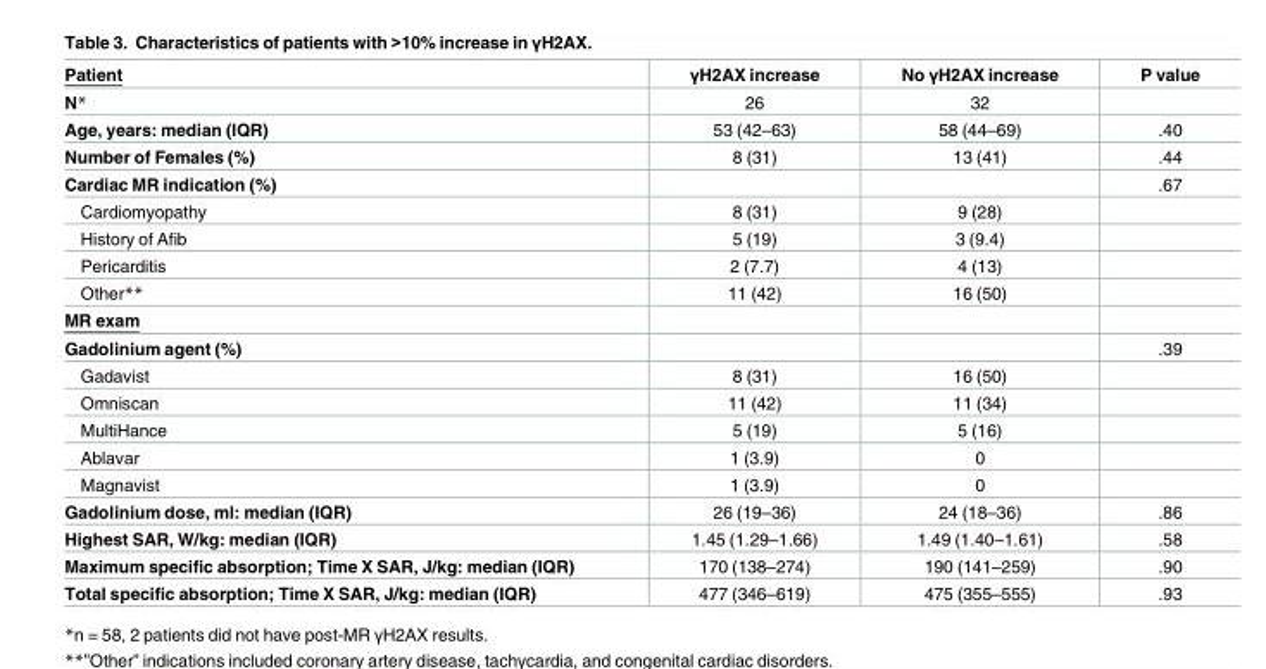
<table><thead><tr><td>Patient</td><td>γH2AX increase</td><td>No γH2AX increase</td><td>P value</td></tr></thead><tbody><tr><td>N*</td><td>26</td><td>32</td><td></td></tr><tr><td>Age, years: median (IQR)</td><td>53 (42–63)</td><td>58 (44–69)</td><td>.40</td></tr><tr><td>Number of Females (%)</td><td>8 (31)</td><td>13 (41)</td><td>.44</td></tr><tr><td>Cardiac MR indication (%)</td><td></td><td></td><td>.67</td></tr><tr><td>Cardiomyopathy</td><td>8 (31)</td><td>9 (28)</td><td></td></tr><tr><td>History of Afib</td><td>5 (19)</td><td>3 (9.4)</td><td></td></tr><tr><td>Pericarditis</td><td>2 (7.7)</td><td>4 (13)</td><td></td></tr><tr><td>Other**</td><td>11 (42)</td><td>16 (50)</td><td></td></tr><tr><td colspan="4">MR exam</td></tr><tr><td>Gadolinium agent (%)</td><td></td><td></td><td>.39</td></tr><tr><td>Gadavist</td><td>8 (31)</td><td>16 (50)</td><td></td></tr><tr><td>Omniscan</td><td>11 (42)</td><td>11 (34)</td><td></td></tr><tr><td>MultiHance</td><td>5 (19)</td><td>5 (16)</td><td></td></tr><tr><td>Ablavar</td><td>1 (3.9)</td><td>0</td><td></td></tr><tr><td>Magnavist</td><td>1 (3.9)</td><td>0</td><td></td></tr><tr><td>Gadolinium dose, ml: median (IQR)</td><td>26 (19–36)</td><td>24 (18–36)</td><td>.86</td></tr><tr><td>Highest SAR, W/kg: median (IQR)</td><td>1.45 (1.29–1.66)</td><td>1.49 (1.40–1.61)</td><td>.58</td></tr><tr><td>Maximum specific absorption; Time X SAR, J/kg: median (IQR)</td><td>170 (138–274)</td><td>190 (141–259)</td><td>.90</td></tr><tr><td>Total specific absorption; Time X SAR, J/kg: median (IQR)</td><td>477 (346–619)</td><td>475 (355–555)</td><td>.93</td></tr></tbody></table>